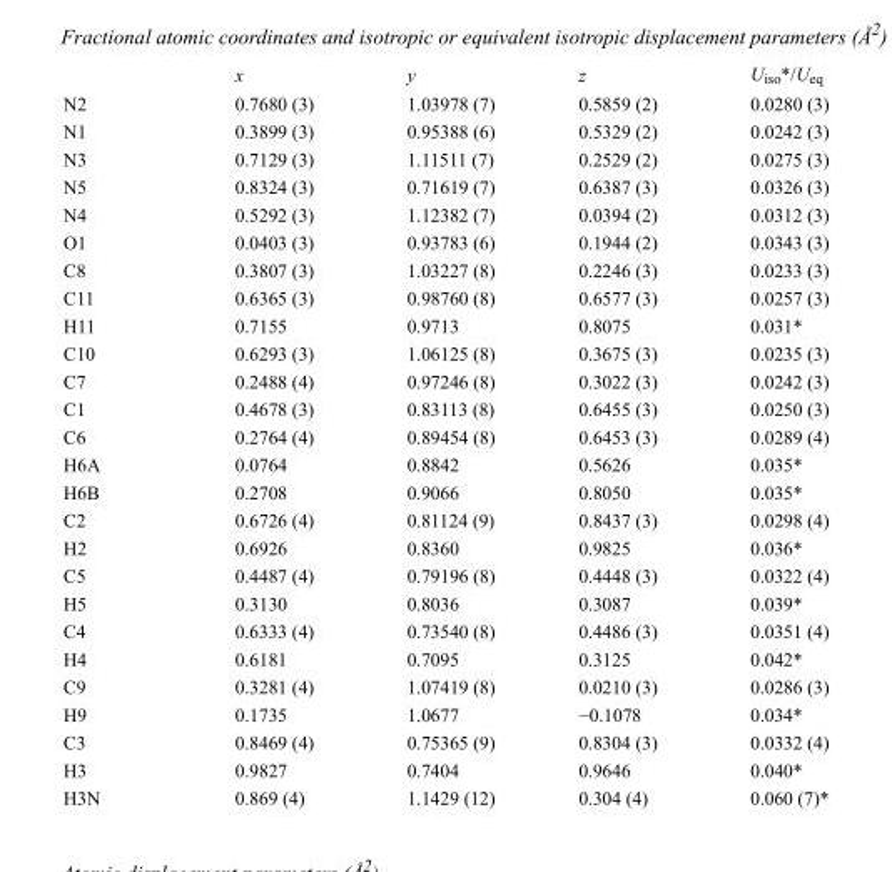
<table><thead><tr><td></td><td>x</td><td>y</td><td>z</td><td>U<sub>iso</sub>*/U<sub>eq</sub></td></tr></thead><tbody><tr><td>N2</td><td>0.7680 (3)</td><td>1.03978 (7)</td><td>0.5859 (2)</td><td>0.0280 (3)</td></tr><tr><td>N1</td><td>0.3899 (3)</td><td>0.95388 (6)</td><td>0.5329 (2)</td><td>0.0242 (3)</td></tr><tr><td>N3</td><td>0.7129 (3)</td><td>1.11511 (7)</td><td>0.2529 (2)</td><td>0.0275 (3)</td></tr><tr><td>N5</td><td>0.8324 (3)</td><td>0.71619 (7)</td><td>0.6387 (3)</td><td>0.0326 (3)</td></tr><tr><td>N4</td><td>0.5292 (3)</td><td>1.12382 (7)</td><td>0.0394 (2)</td><td>0.0312 (3)</td></tr><tr><td>O1</td><td>0.0403 (3)</td><td>0.93783 (6)</td><td>0.1944 (2)</td><td>0.0343 (3)</td></tr><tr><td>C8</td><td>0.3807 (3)</td><td>1.03227 (8)</td><td>0.2246 (3)</td><td>0.0233 (3)</td></tr><tr><td>C11</td><td>0.6365 (3)</td><td>0.98760 (8)</td><td>0.6577 (3)</td><td>0.0257 (3)</td></tr><tr><td>H11</td><td>0.7155</td><td>0.9713</td><td>0.8075</td><td>0.031*</td></tr><tr><td>C10</td><td>0.6293 (3)</td><td>1.06125 (8)</td><td>0.3675 (3)</td><td>0.0235 (3)</td></tr><tr><td>C7</td><td>0.2488 (4)</td><td>0.97246 (8)</td><td>0.3022 (3)</td><td>0.0242 (3)</td></tr><tr><td>C1</td><td>0.4678 (3)</td><td>0.83113 (8)</td><td>0.6455 (3)</td><td>0.0250 (3)</td></tr><tr><td>C6</td><td>0.2764 (4)</td><td>0.89454 (8)</td><td>0.6453 (3)</td><td>0.0289 (4)</td></tr><tr><td>H6A</td><td>0.0764</td><td>0.8842</td><td>0.5626</td><td>0.035*</td></tr><tr><td>H6B</td><td>0.2708</td><td>0.9066</td><td>0.8050</td><td>0.035*</td></tr><tr><td>C2</td><td>0.6726 (4)</td><td>0.81124 (9)</td><td>0.8437 (3)</td><td>0.0298 (4)</td></tr><tr><td>H2</td><td>0.6926</td><td>0.8360</td><td>0.9825</td><td>0.036*</td></tr><tr><td>C5</td><td>0.4487 (4)</td><td>0.79196 (8)</td><td>0.4448 (3)</td><td>0.0322 (4)</td></tr><tr><td>H5</td><td>0.3130</td><td>0.8036</td><td>0.3087</td><td>0.039*</td></tr><tr><td>C4</td><td>0.6333 (4)</td><td>0.73540 (8)</td><td>0.4486 (3)</td><td>0.0351 (4)</td></tr><tr><td>H4</td><td>0.6181</td><td>0.7095</td><td>0.3125</td><td>0.042*</td></tr><tr><td>C9</td><td>0.3281 (4)</td><td>1.07419 (8)</td><td>0.0210 (3)</td><td>0.0286 (3)</td></tr><tr><td>H9</td><td>0.1735</td><td>1.0677</td><td>−0.1078</td><td>0.034*</td></tr><tr><td>C3</td><td>0.8469 (4)</td><td>0.75365 (9)</td><td>0.8304 (3)</td><td>0.0332 (4)</td></tr><tr><td>H3</td><td>0.9827</td><td>0.7404</td><td>0.9646</td><td>0.040*</td></tr><tr><td>H3N</td><td>0.869 (4)</td><td>1.1429 (12)</td><td>0.304 (4)</td><td>0.060 (7)*</td></tr></tbody></table>